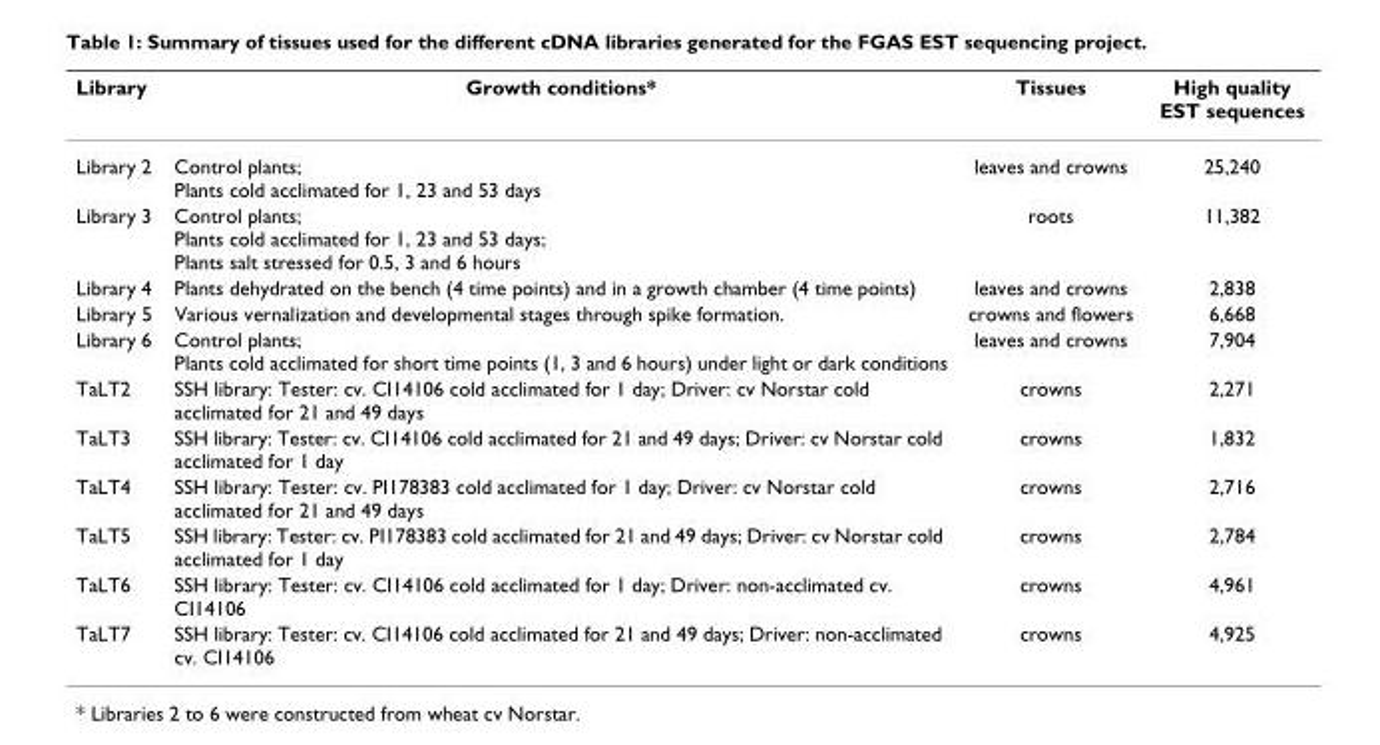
<table><thead><tr><td>Library</td><td>Growth conditions*</td><td>Tissues</td><td>High quality EST sequences</td></tr></thead><tbody><tr><td>Library 2</td><td>Control plants; Plants cold acclimated for 1, 23 and 53 days</td><td>leaves and crowns</td><td>25,240</td></tr><tr><td>Library 3</td><td>Control plants; Plants cold acclimated for 1, 23 and 53 days; Plants salt stressed for 0.5, 3 and 6 hours</td><td>roots</td><td>11,382</td></tr><tr><td>Library 4</td><td>Plants dehydrated on the bench (4 time points) and in a growth chamber (4 time points)</td><td>leaves and crowns</td><td>2,838</td></tr><tr><td>Library 5</td><td>Various vernalization and developmental stages through spike formation.</td><td>crowns and flowers</td><td>6,668</td></tr><tr><td>Library 6</td><td>Control plants; Plants cold acclimated for short time points (1, 3 and 6 hours) under light or dark conditions</td><td>leaves and crowns</td><td>7,904</td></tr><tr><td>TaLT2</td><td>SSH library: Tester: cv. CI14106 cold acclimated for 1 day; Driver: cv Norstar cold acclimated for 21 and 49 days</td><td>crowns</td><td>2,271</td></tr><tr><td>TaLT3</td><td>SSH library: Tester: cv. CI14106 cold acclimated for 21 and 49 days; Driver: cv Norstar cold acclimated for 1 day</td><td>crowns</td><td>1,832</td></tr><tr><td>TaLT4</td><td>SSH library: Tester: cv. PI178383 cold acclimated for 1 day; Driver: cv Norstar cold acclimated for 21 and 49 days</td><td>crowns</td><td>2,716</td></tr><tr><td>TaLT5</td><td>SSH library: Tester: cv. PI178383 cold acclimated for 21 and 49 days; Driver: cv Norstar cold acclimated for 1 day</td><td>crowns</td><td>2,784</td></tr><tr><td>TaLT6</td><td>SSH library: Tester: cv. CI14106 cold acclimated for 1 day; Driver: non-acclimated cv. CI14106</td><td>crowns</td><td>4,961</td></tr><tr><td>TaLT7</td><td>SSH library: Tester: cv. CI14106 cold acclimated for 21 and 49 days; Driver: non-acclimated cv. CI14106</td><td>crowns</td><td>4,925</td></tr></tbody></table>